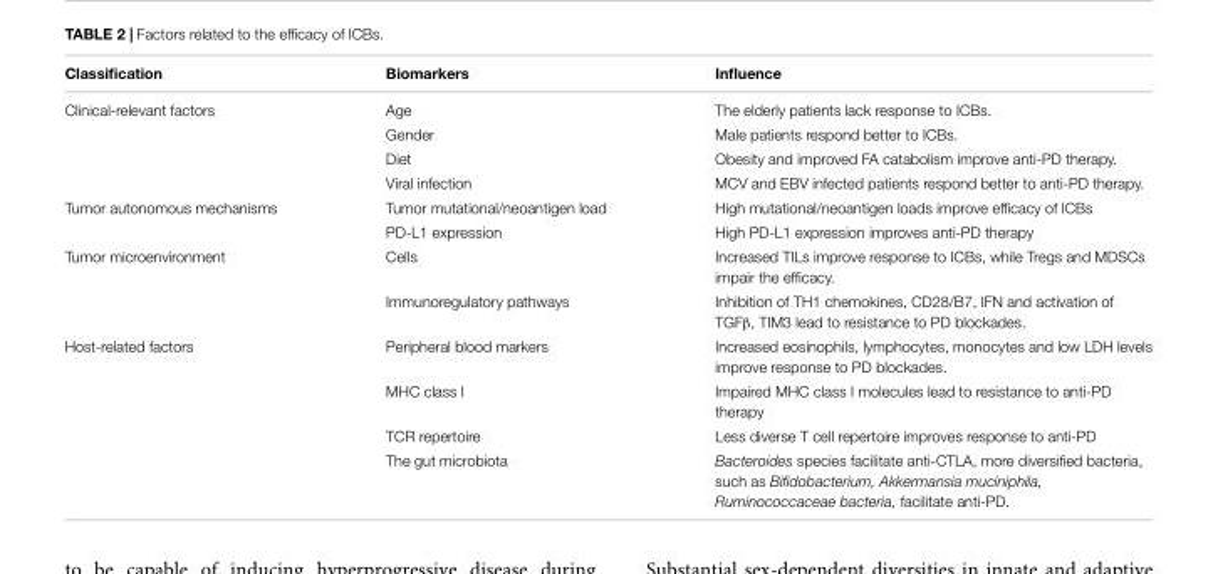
<table><thead><tr><td>Classification</td><td>Biomarkers</td><td>Influence</td></tr></thead><tbody><tr><td rowspan="4">Clinical-relevant factors</td><td>Age</td><td>The elderly patients lack response to ICBs.</td></tr><tr><td>Gender</td><td>Male patients respond better to ICBs.</td></tr><tr><td>Diet</td><td>Obesity and improved FA catabolism improve anti-PD therapy.</td></tr><tr><td>Viral infection</td><td>MCV and EBV infected patients respond better to anti-PD therapy.</td></tr><tr><td rowspan="2">Tumor autonomous mechanisms</td><td>Tumor mutational/neoantigen load</td><td>High mutational/neoantigen loads improve efficacy of ICBs</td></tr><tr><td>PD-L1 expression</td><td>High PD-L1 expression improves anti-PD therapy</td></tr><tr><td rowspan="2">Tumor microenvironment</td><td>Cells</td><td>Increased TILs improve response to ICBs, while Tregs and MDSCs impair the efficacy.</td></tr><tr><td>Immunoregulatory pathways</td><td>Inhibition of TH1 chemokines, CD28/B7, IFN and activation of TGFβ, TIM3 lead to resistance to PD blockades.</td></tr><tr><td rowspan="4">Host-related factors</td><td>Peripheral blood markers</td><td>Increased eosinophils, lymphocytes, monocytes and low LDH levels improve response to PD blockades.</td></tr><tr><td>MHC class I</td><td>Impaired MHC class I molecules lead to resistance to anti-PD therapy</td></tr><tr><td>TCR repertoire</td><td>Less diverse T cell repertoire improves response to anti-PD</td></tr><tr><td>The gut microbiota</td><td>Bacteroides species facilitate anti-CTLA, more diversified bacteria, such as Bifidobacterium, Akkermansia muciniphila, Ruminococcaceae bacteria, facilitate anti-PD.</td></tr></tbody></table>